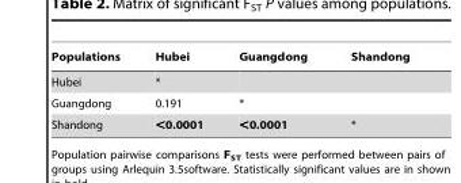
<table><thead><tr><td>Populations</td><td>Hubei</td><td>Guangdong</td><td>Shandong</td></tr></thead><tbody><tr><td>Hubei</td><td>*</td><td></td><td></td></tr><tr><td>Guangdong</td><td>0.191</td><td>*</td><td></td></tr><tr><td>Shandong</td><td>&lt;0.0001</td><td>&lt;0.0001</td><td>*</td></tr></tbody></table>